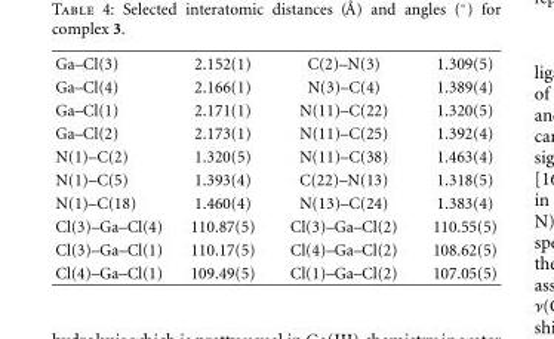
<table><tbody><tr><td>Ga–Cl(3)</td><td>2.152(1)</td><td>C(2)–N(3)</td><td>1.309(5)</td></tr><tr><td>Ga–Cl(4)</td><td>2.166(1)</td><td>N(3)–C(4)</td><td>1.389(4)</td></tr><tr><td>Ga–Cl(1)</td><td>2.171(1)</td><td>N(11)–C(22)</td><td>1.320(5)</td></tr><tr><td>Ga–Cl(2)</td><td>2.173(1)</td><td>N(11)–C(25)</td><td>1.392(4)</td></tr><tr><td>N(1)–C(2)</td><td>1.320(5)</td><td>N(11)–C(38)</td><td>1.463(4)</td></tr><tr><td>N(1)–C(5)</td><td>1.393(4)</td><td>C(22)–N(13)</td><td>1.318(5)</td></tr><tr><td>N(1)–C(18)</td><td>1.460(4)</td><td>N(13)–C(24)</td><td>1.383(4)</td></tr><tr><td>Cl(3)–Ga–Cl(4)</td><td>110.87(5)</td><td>Cl(3)–Ga–Cl(2)</td><td>110.55(5)</td></tr><tr><td>Cl(3)–Ga–Cl(1)</td><td>110.17(5)</td><td>Cl(4)–Ga–Cl(2)</td><td>108.62(5)</td></tr><tr><td>Cl(4)–Ga–Cl(1)</td><td>109.49(5)</td><td>Cl(1)–Ga–Cl(2)</td><td>107.05(5)</td></tr></tbody></table>